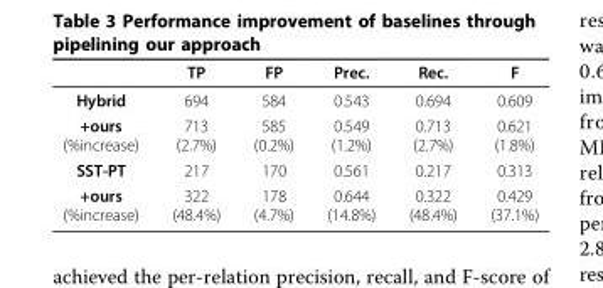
<table><thead><tr><td></td><td>TP</td><td>FP</td><td>Prec.</td><td>Rec.</td><td>F</td></tr></thead><tbody><tr><td>Hybrid</td><td>694</td><td>584</td><td>0.543</td><td>0.694</td><td>0.609</td></tr><tr><td>+ours (%increase)</td><td>713 (2.7%)</td><td>585 (0.2%)</td><td>0.549 (1.2%)</td><td>0.713 (2.7%)</td><td>0.621 (1.8%)</td></tr><tr><td>SST-PT</td><td>217</td><td>170</td><td>0.561</td><td>0.217</td><td>0.313</td></tr><tr><td>+ours (%increase)</td><td>322 (48.4%)</td><td>178 (4.7%)</td><td>0.644 (14.8%)</td><td>0.322 (48.4%)</td><td>0.429 (37.1%)</td></tr></tbody></table>